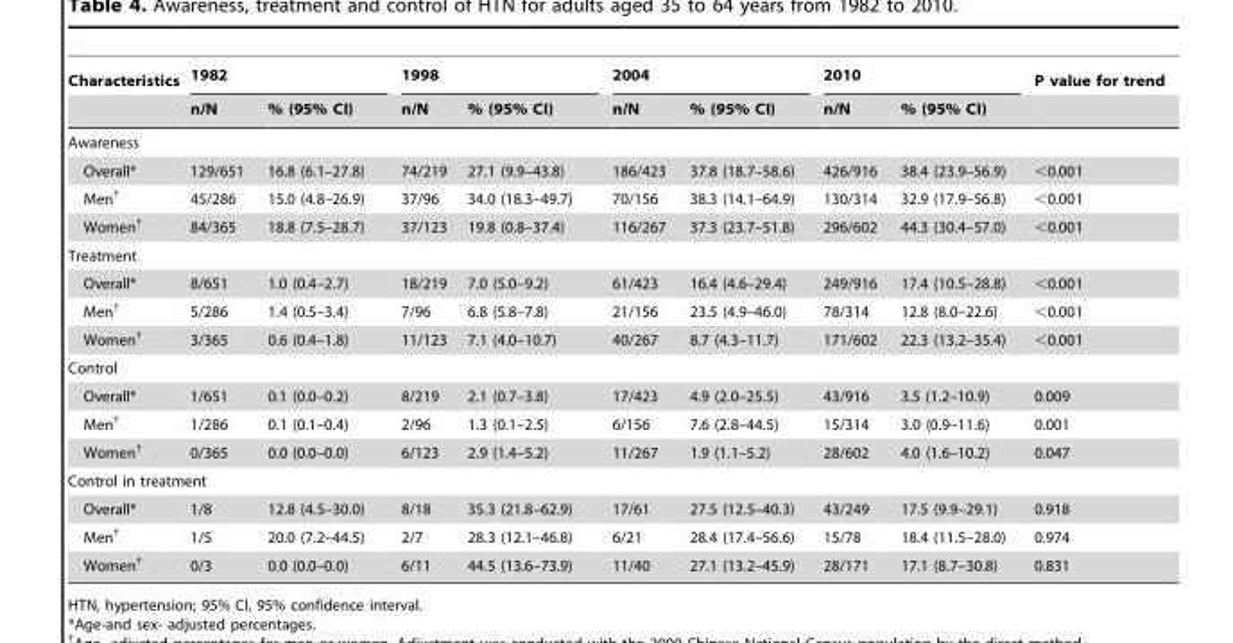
<table><thead><tr><td rowspan="2">Characteristics</td><td colspan="2">1982</td><td colspan="2">1998</td><td colspan="2">2004</td><td colspan="2">2010</td><td rowspan="2">P value for trend</td></tr><tr><td>n/N</td><td>% (95% CI)</td><td>n/N</td><td>% (95% CI)</td><td>n/N</td><td>% (95% CI)</td><td>n/N</td><td>% (95% CI)</td></tr></thead><tbody><tr><td colspan="10">Awareness</td></tr><tr><td>Overall*</td><td>129/651</td><td>16.8 (6.1–27.8)</td><td>74/219</td><td>27.1 (9.9–43.8)</td><td>186/423</td><td>37.8 (18.7–58.6)</td><td>426/916</td><td>38.4 (23.9–56.9)</td><td>&lt;0.001</td></tr><tr><td>Men†</td><td>45/286</td><td>15.0 (4.8–26.9)</td><td>37/96</td><td>34.0 (18.3–49.7)</td><td>70/156</td><td>38.3 (14.1–64.9)</td><td>130/314</td><td>32.9 (17.9–56.8)</td><td>&lt;0.001</td></tr><tr><td>Women†</td><td>84/365</td><td>18.8 (7.5–28.7)</td><td>37/123</td><td>19.8 (0.8–37.4)</td><td>116/267</td><td>37.3 (23.7–51.8)</td><td>296/602</td><td>44.3 (30.4–57.0)</td><td>&lt;0.001</td></tr><tr><td colspan="10">Treatment</td></tr><tr><td>Overall*</td><td>8/651</td><td>1.0 (0.4–2.7)</td><td>18/219</td><td>7.0 (5.0–9.2)</td><td>61/423</td><td>16.4 (4.6–29.4)</td><td>249/916</td><td>17.4 (10.5–28.8)</td><td>&lt;0.001</td></tr><tr><td>Men†</td><td>5/286</td><td>1.4 (0.5–3.4)</td><td>7/96</td><td>6.8 (5.8–7.8)</td><td>21/156</td><td>23.5 (4.9–46.0)</td><td>78/314</td><td>12.8 (8.0–22.6)</td><td>&lt;0.001</td></tr><tr><td>Women†</td><td>3/365</td><td>0.6 (0.4–1.8)</td><td>11/123</td><td>7.1 (4.0–10.7)</td><td>40/267</td><td>8.7 (4.3–11.7)</td><td>171/602</td><td>22.3 (13.2–35.4)</td><td>&lt;0.001</td></tr><tr><td colspan="10">Control</td></tr><tr><td>Overall*</td><td>1/651</td><td>0.1 (0.0–0.2)</td><td>8/219</td><td>2.1 (0.7–3.8)</td><td>17/423</td><td>4.9 (2.0–25.5)</td><td>43/916</td><td>3.5 (1.2–10.9)</td><td>0.009</td></tr><tr><td>Men†</td><td>1/286</td><td>0.1 (0.1–0.4)</td><td>2/96</td><td>1.3 (0.1–2.5)</td><td>6/156</td><td>7.6 (2.8–44.5)</td><td>15/314</td><td>3.0 (0.9–11.6)</td><td>0.001</td></tr><tr><td>Women†</td><td>0/365</td><td>0.0 (0.0–0.0)</td><td>6/123</td><td>2.9 (1.4–5.2)</td><td>11/267</td><td>1.9 (1.1–5.2)</td><td>28/602</td><td>4.0 (1.6–10.2)</td><td>0.047</td></tr><tr><td colspan="10">Control in treatment</td></tr><tr><td>Overall*</td><td>1/8</td><td>12.8 (4.5–30.0)</td><td>8/18</td><td>35.3 (21.8–62.9)</td><td>17/61</td><td>27.5 (12.5–40.3)</td><td>43/249</td><td>17.5 (9.9–29.1)</td><td>0.918</td></tr><tr><td>Men†</td><td>1/5</td><td>20.0 (7.2–44.5)</td><td>2/7</td><td>28.3 (12.1–46.8)</td><td>6/21</td><td>28.4 (17.4–56.6)</td><td>15/78</td><td>18.4 (11.5–28.0)</td><td>0.974</td></tr><tr><td>Women†</td><td>0/3</td><td>0.0 (0.0–0.0)</td><td>6/11</td><td>44.5 (13.6–73.9)</td><td>11/40</td><td>27.1 (13.2–45.9)</td><td>28/171</td><td>17.1 (8.7–30.8)</td><td>0.831</td></tr></tbody></table>